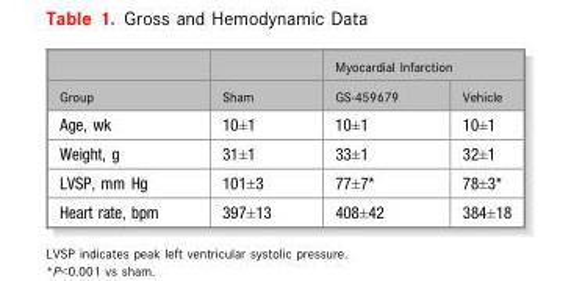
<table><thead><tr><td rowspan="2">Group</td><td rowspan="2">Sham</td><td colspan="2">Myocardial Infarction</td></tr><tr><td>GS-459679</td><td>Vehicle</td></tr></thead><tbody><tr><td>Age, wk</td><td>10±1</td><td>10±1</td><td>10±1</td></tr><tr><td>Weight, g</td><td>31±1</td><td>33±1</td><td>32±1</td></tr><tr><td>LVSP, mm Hg</td><td>101±3</td><td>77±7*</td><td>78±3*</td></tr><tr><td>Heart rate, bpm</td><td>397±13</td><td>408±42</td><td>384±18</td></tr></tbody></table>